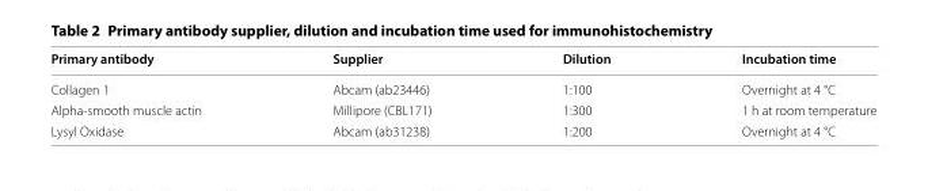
<table><thead><tr><td>Primary antibody</td><td>Supplier</td><td>Dilution</td><td>Incubation time</td></tr></thead><tbody><tr><td>Collagen 1</td><td>Abcam (ab23446)</td><td>1:100</td><td>Overnight at 4 °C</td></tr><tr><td>Alpha‑smooth muscle actin</td><td>Millipore (CBL171)</td><td>1:300</td><td>1 h at room temperature</td></tr><tr><td>Lysyl Oxidase</td><td>Abcam (ab31238)</td><td>1:200</td><td>Overnight at 4 °C</td></tr></tbody></table>